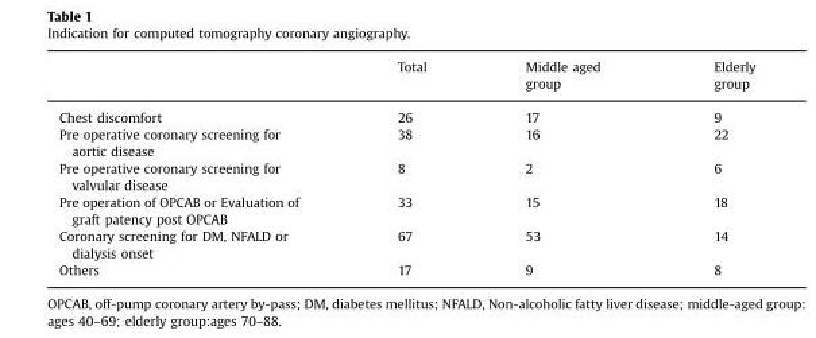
<table><thead><tr><td></td><td>Total</td><td>Middle aged group</td><td>Elderly group</td></tr></thead><tbody><tr><td>Chest discomfort</td><td>26</td><td>17</td><td>9</td></tr><tr><td>Pre operative coronary screening for aortic disease</td><td>38</td><td>16</td><td>22</td></tr><tr><td>Pre operative coronary screening for valvular disease</td><td>8</td><td>2</td><td>6</td></tr><tr><td>Pre operation of OPCAB or Evaluation of graft patency post OPCAB</td><td>33</td><td>15</td><td>18</td></tr><tr><td>Coronary screening for DM, NFALD or dialysis onset</td><td>67</td><td>53</td><td>14</td></tr><tr><td>Others</td><td>17</td><td>9</td><td>8</td></tr></tbody></table>